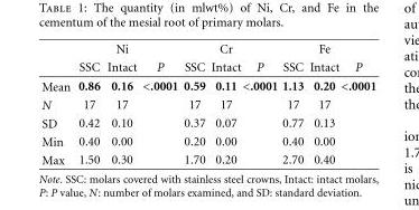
<table><thead><tr><td rowspan="2"></td><td rowspan="2">SSC</td><td rowspan="2">Ni Intact</td><td rowspan="2">P</td><td rowspan="2">SSC</td><td rowspan="2">Cr Intact</td><td rowspan="2">P</td><td rowspan="2">SSC</td><td rowspan="2">Fe Intact</td><td rowspan="2">P</td></tr><tr></tr></thead><tbody><tr><td>Mean</td><td>0.86</td><td>0.16</td><td>&lt;.0001</td><td>0.59</td><td>0.11</td><td>&lt;.0001</td><td>1.13</td><td>0.20</td><td>&lt;.0001</td></tr><tr><td>N</td><td>17</td><td>17</td><td></td><td>17</td><td>17</td><td></td><td>17</td><td>17</td><td></td></tr><tr><td>SD</td><td>0.42</td><td>0.10</td><td></td><td>0.37</td><td>0.07</td><td></td><td>0.77</td><td>0.13</td><td></td></tr><tr><td>Min</td><td>0.40</td><td>0.00</td><td></td><td>0.20</td><td>0.00</td><td></td><td>0.40</td><td>0.00</td><td></td></tr><tr><td>Max</td><td>1.50</td><td>0.30</td><td></td><td>1.70</td><td>0.20</td><td></td><td>2.70</td><td>0.40</td><td></td></tr></tbody></table>